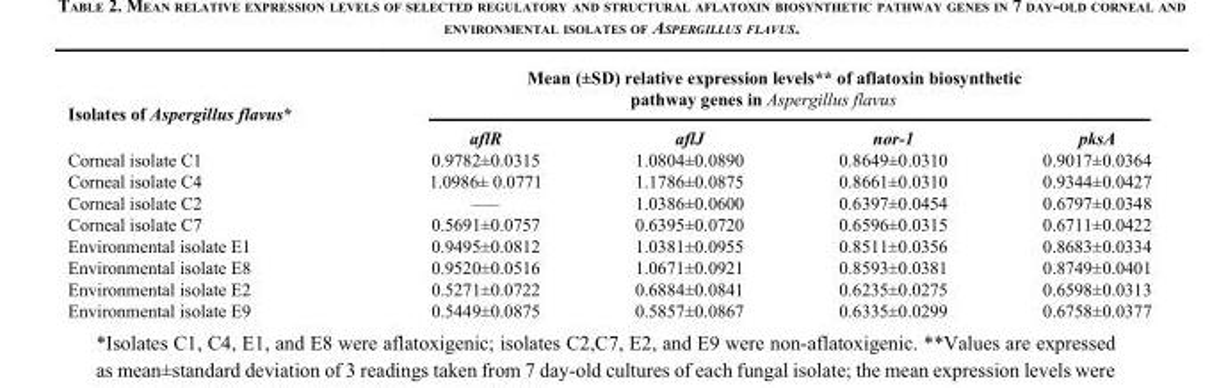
<table><thead><tr><td rowspan="2">Isolates of Aspergillus flavus*</td><td colspan="4">Mean (±SD) relative expression levels** of aflatoxin biosynthetic pathway genes in Aspergillus flavus</td></tr><tr><td>aflR</td><td>aflJ</td><td>nor-1</td><td>pksA</td></tr></thead><tbody><tr><td>Corneal isolate C1</td><td>0.9782±0.0315</td><td>1.0804±0.0890</td><td>0.8649±0.0310</td><td>0.9017±0.0364</td></tr><tr><td>Corneal isolate C4</td><td>1.0986± 0.0771</td><td>1.1786±0.0875</td><td>0.8661±0.0310</td><td>0.9344±0.0427</td></tr><tr><td>Corneal isolate C2</td><td>—–</td><td>1.0386±0.0600</td><td>0.6397±0.0454</td><td>0.6797±0.0348</td></tr><tr><td>Corneal isolate C7</td><td>0.5691±0.0757</td><td>0.6395±0.0720</td><td>0.6596±0.0315</td><td>0.6711±0.0422</td></tr><tr><td>Environmental isolate E1</td><td>0.9495±0.0812</td><td>1.0381±0.0955</td><td>0.8511±0.0356</td><td>0.8683±0.0334</td></tr><tr><td>Environmental isolate E8</td><td>0.9520±0.0516</td><td>1.0671±0.0921</td><td>0.8593±0.0381</td><td>0.8749±0.0401</td></tr><tr><td>Environmental isolate E2</td><td>0.5271±0.0722</td><td>0.6884±0.0841</td><td>0.6235±0.0275</td><td>0.6598±0.0313</td></tr><tr><td>Environmental isolate E9</td><td>0.5449±0.0875</td><td>0.5857±0.0867</td><td>0.6335±0.0299</td><td>0.6758±0.0377</td></tr></tbody></table>